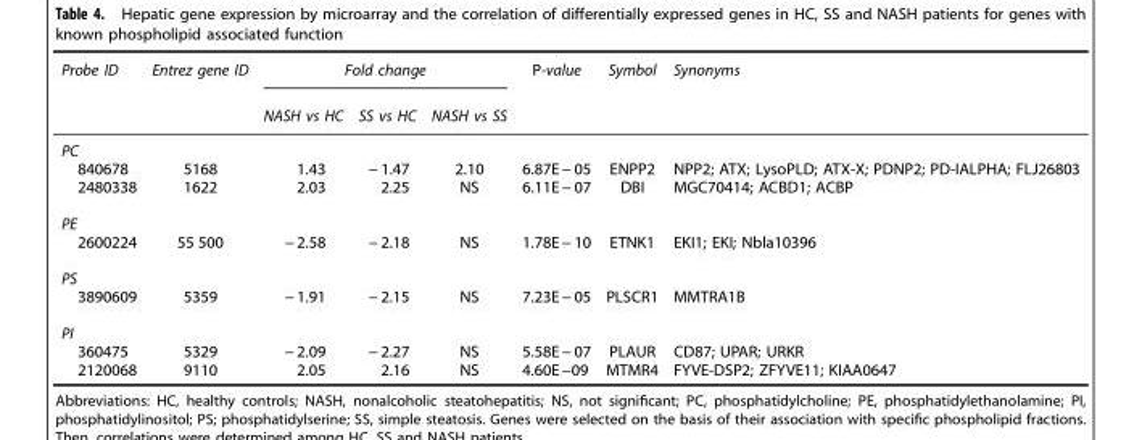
<table><thead><tr><td rowspan="2">Probe ID</td><td rowspan="2">Entrez gene ID</td><td colspan="3">Fold change</td><td rowspan="2">P-value</td><td rowspan="2">Symbol</td><td rowspan="2">Synonyms</td></tr><tr><td>NASH vs HC</td><td>SS vs HC</td><td>NASH vs SS</td></tr></thead><tbody><tr><td colspan="8">PC</td></tr><tr><td>840678</td><td>5168</td><td>1.43</td><td>− 1.47</td><td>2.10</td><td>6.87E − 05</td><td>ENPP2</td><td>NPP2; ATX; LysoPLD; ATX-X; PDNP2; PD-IALPHA; FLJ26803</td></tr><tr><td>2480338</td><td>1622</td><td>2.03</td><td>2.25</td><td>NS</td><td>6.11E − 07</td><td>DBI</td><td>MGC70414; ACBD1; ACBP</td></tr><tr><td colspan="8">PE</td></tr><tr><td>2600224</td><td>55 500</td><td>− 2.58</td><td>− 2.18</td><td>NS</td><td>1.78E − 10</td><td>ETNK1</td><td>EKI1; EKI; Nbla10396</td></tr><tr><td colspan="8">PS</td></tr><tr><td>3890609</td><td>5359</td><td>− 1.91</td><td>− 2.15</td><td>NS</td><td>7.23E − 05</td><td>PLSCR1</td><td>MMTRA1B</td></tr><tr><td colspan="8">PI</td></tr><tr><td>360475</td><td>5329</td><td>− 2.09</td><td>− 2.27</td><td>NS</td><td>5.58E − 07</td><td>PLAUR</td><td>CD87; UPAR; URKR</td></tr><tr><td>2120068</td><td>9110</td><td>2.05</td><td>2.16</td><td>NS</td><td>4.60E −09</td><td>MTMR4</td><td>FYVE-DSP2; ZFYVE11; KIAA0647</td></tr></tbody></table>